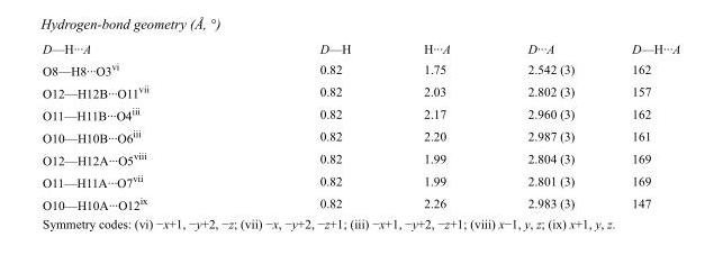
<table><tbody><tr><td>D—H···A</td><td>D—H</td><td>H···A</td><td>D···A</td><td>D—H···A</td></tr><tr><td>O8—H8···O3<sup>vi</sup></td><td>0.82</td><td>1.75</td><td>2.542 (3)</td><td>162</td></tr><tr><td>O12—H12B···O11<sup>vii</sup></td><td>0.82</td><td>2.03</td><td>2.802 (3)</td><td>157</td></tr><tr><td>O11—H11B···O4<sup>iii</sup></td><td>0.82</td><td>2.17</td><td>2.960 (3)</td><td>162</td></tr><tr><td>O10—H10B···O6<sup>iii</sup></td><td>0.82</td><td>2.20</td><td>2.987 (3)</td><td>161</td></tr><tr><td>O12—H12A···O5<sup>viii</sup></td><td>0.82</td><td>1.99</td><td>2.804 (3)</td><td>169</td></tr><tr><td>O11—H11A···O7<sup>vii</sup></td><td>0.82</td><td>1.99</td><td>2.801 (3)</td><td>169</td></tr><tr><td>O10—H10A···O12<sup>ix</sup></td><td>0.82</td><td>2.26</td><td>2.983 (3)</td><td>147</td></tr></tbody></table>